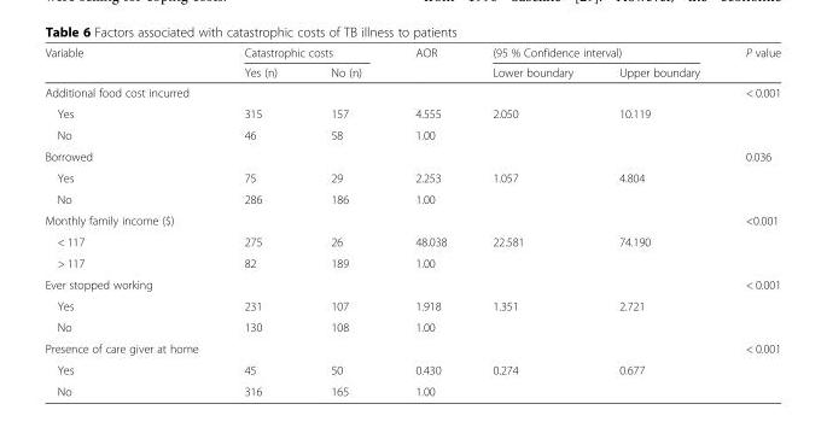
<table><thead><tr><td rowspan="2">Variable</td><td colspan="2">Catastrophic costs</td><td rowspan="2">AOR</td><td colspan="2">(95 % Confidence interval)</td><td rowspan="2">P value</td></tr><tr><td>Yes (n)</td><td>No (n)</td><td>Lower boundary</td><td>Upper boundary</td></tr></thead><tbody><tr><td>Additional food cost incurred</td><td></td><td></td><td></td><td></td><td></td><td>&lt; 0.001</td></tr><tr><td>Yes</td><td>315</td><td>157</td><td>4.555</td><td>2.050</td><td>10.119</td><td></td></tr><tr><td>No</td><td>46</td><td>58</td><td>1.00</td><td></td><td></td><td></td></tr><tr><td>Borrowed</td><td></td><td></td><td></td><td></td><td></td><td>0.036</td></tr><tr><td>Yes</td><td>75</td><td>29</td><td>2.253</td><td>1.057</td><td>4.804</td><td></td></tr><tr><td>No</td><td>286</td><td>186</td><td>1.00</td><td></td><td></td><td></td></tr><tr><td>Monthly family income ($)</td><td></td><td></td><td></td><td></td><td></td><td>&lt;0.001</td></tr><tr><td>&lt; 117</td><td>275</td><td>26</td><td>48.038</td><td>22.581</td><td>74.190</td><td></td></tr><tr><td>&gt; 117</td><td>82</td><td>189</td><td>1.00</td><td></td><td></td><td></td></tr><tr><td>Ever stopped working</td><td></td><td></td><td></td><td></td><td></td><td>&lt; 0.001</td></tr><tr><td>Yes</td><td>231</td><td>107</td><td>1.918</td><td>1.351</td><td>2.721</td><td></td></tr><tr><td>No</td><td>130</td><td>108</td><td>1.00</td><td></td><td></td><td></td></tr><tr><td>Presence of care giver at home</td><td></td><td></td><td></td><td></td><td></td><td>&lt; 0.001</td></tr><tr><td>Yes</td><td>45</td><td>50</td><td>0.430</td><td>0.274</td><td>0.677</td><td></td></tr><tr><td>No</td><td>316</td><td>165</td><td>1.00</td><td></td><td></td><td></td></tr></tbody></table>